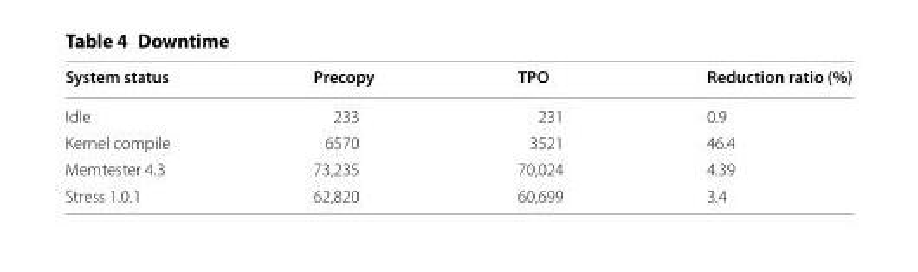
<table><thead><tr><td>System status</td><td>Precopy</td><td>TPO</td><td>Reduction ratio (%)</td></tr></thead><tbody><tr><td>Idle</td><td>233</td><td>231</td><td>0.9</td></tr><tr><td>Kernel compile</td><td>6570</td><td>3521</td><td>46.4</td></tr><tr><td>Memtester 4.3</td><td>73,235</td><td>70,024</td><td>4.39</td></tr><tr><td>Stress 1.0.1</td><td>62,820</td><td>60,699</td><td>3.4</td></tr></tbody></table>